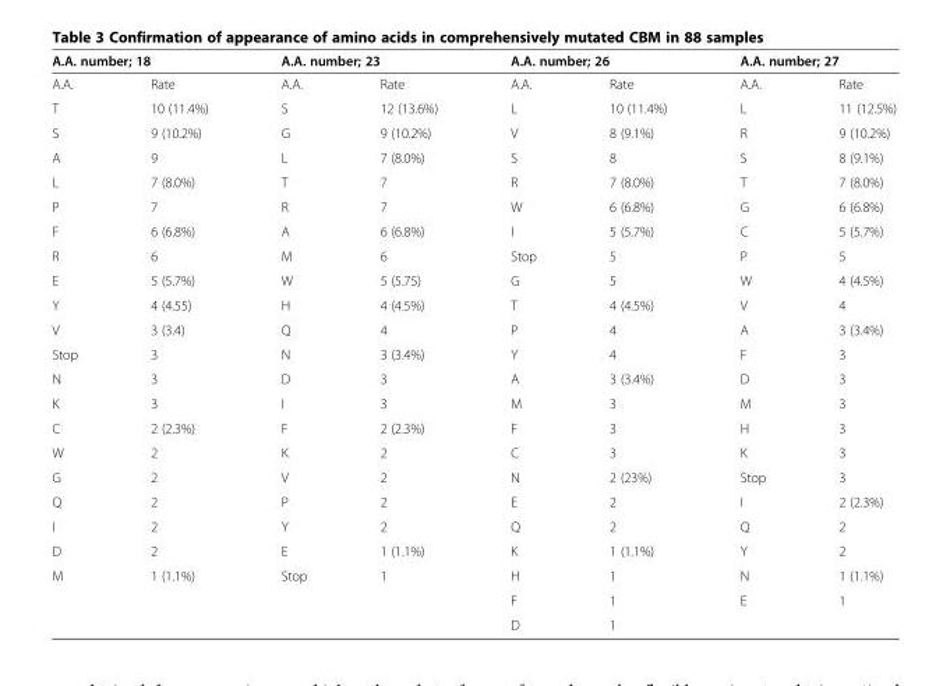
<table><thead><tr><td colspan="2">A.A. number; 18</td><td colspan="2">A.A. number; 23</td><td colspan="2">A.A. number; 26</td><td colspan="2">A.A. number; 27</td></tr><tr><td>A.A.</td><td>Rate</td><td>A.A.</td><td>Rate</td><td>A.A.</td><td>Rate</td><td>A.A.</td><td>Rate</td></tr></thead><tbody><tr><td>T</td><td>10 (11.4%)</td><td>S</td><td>12 (13.6%)</td><td>L</td><td>10 (11.4%)</td><td>L</td><td>11 (12.5%)</td></tr><tr><td>S</td><td>9 (10.2%)</td><td>G</td><td>9 (10.2%)</td><td>V</td><td>8 (9.1%)</td><td>R</td><td>9 (10.2%)</td></tr><tr><td>A</td><td>9</td><td>L</td><td>7 (8.0%)</td><td>S</td><td>8</td><td>S</td><td>8 (9.1%)</td></tr><tr><td>L</td><td>7 (8.0%)</td><td>T</td><td>7</td><td>R</td><td>7 (8.0%)</td><td>T</td><td>7 (8.0%)</td></tr><tr><td>P</td><td>7</td><td>R</td><td>7</td><td>W</td><td>6 (6.8%)</td><td>G</td><td>6 (6.8%)</td></tr><tr><td>F</td><td>6 (6.8%)</td><td>A</td><td>6 (6.8%)</td><td>I</td><td>5 (5.7%)</td><td>C</td><td>5 (5.7%)</td></tr><tr><td>R</td><td>6</td><td>M</td><td>6</td><td>Stop</td><td>5</td><td>P</td><td>5</td></tr><tr><td>E</td><td>5 (5.7%)</td><td>W</td><td>5 (5.75)</td><td>G</td><td>5</td><td>W</td><td>4 (4.5%)</td></tr><tr><td>Y</td><td>4 (4.55)</td><td>H</td><td>4 (4.5%)</td><td>T</td><td>4 (4.5%)</td><td>V</td><td>4</td></tr><tr><td>V</td><td>3 (3.4)</td><td>Q</td><td>4</td><td>P</td><td>4</td><td>A</td><td>3 (3.4%)</td></tr><tr><td>Stop</td><td>3</td><td>N</td><td>3 (3.4%)</td><td>Y</td><td>4</td><td>F</td><td>3</td></tr><tr><td>N</td><td>3</td><td>D</td><td>3</td><td>A</td><td>3 (3.4%)</td><td>D</td><td>3</td></tr><tr><td>K</td><td>3</td><td>I</td><td>3</td><td>M</td><td>3</td><td>M</td><td>3</td></tr><tr><td>C</td><td>2 (2.3%)</td><td>F</td><td>2 (2.3%)</td><td>F</td><td>3</td><td>H</td><td>3</td></tr><tr><td>W</td><td>2</td><td>K</td><td>2</td><td>C</td><td>3</td><td>K</td><td>3</td></tr><tr><td>G</td><td>2</td><td>V</td><td>2</td><td>N</td><td>2 (23%)</td><td>Stop</td><td>3</td></tr><tr><td>Q</td><td>2</td><td>P</td><td>2</td><td>E</td><td>2</td><td>I</td><td>2 (2.3%)</td></tr><tr><td>I</td><td>2</td><td>Y</td><td>2</td><td>Q</td><td>2</td><td>Q</td><td>2</td></tr><tr><td>D</td><td>2</td><td>E</td><td>1 (1.1%)</td><td>K</td><td>1 (1.1%)</td><td>Y</td><td>2</td></tr><tr><td rowspan="3">M</td><td>1 (1.1%)</td><td>Stop</td><td>1</td><td>H</td><td>1</td><td>N</td><td>1 (1.1%)</td></tr><tr><td></td><td></td><td></td><td>F</td><td>1</td><td>E</td><td>1</td></tr><tr><td></td><td></td><td></td><td>D</td><td>1</td><td></td><td></td></tr></tbody></table>